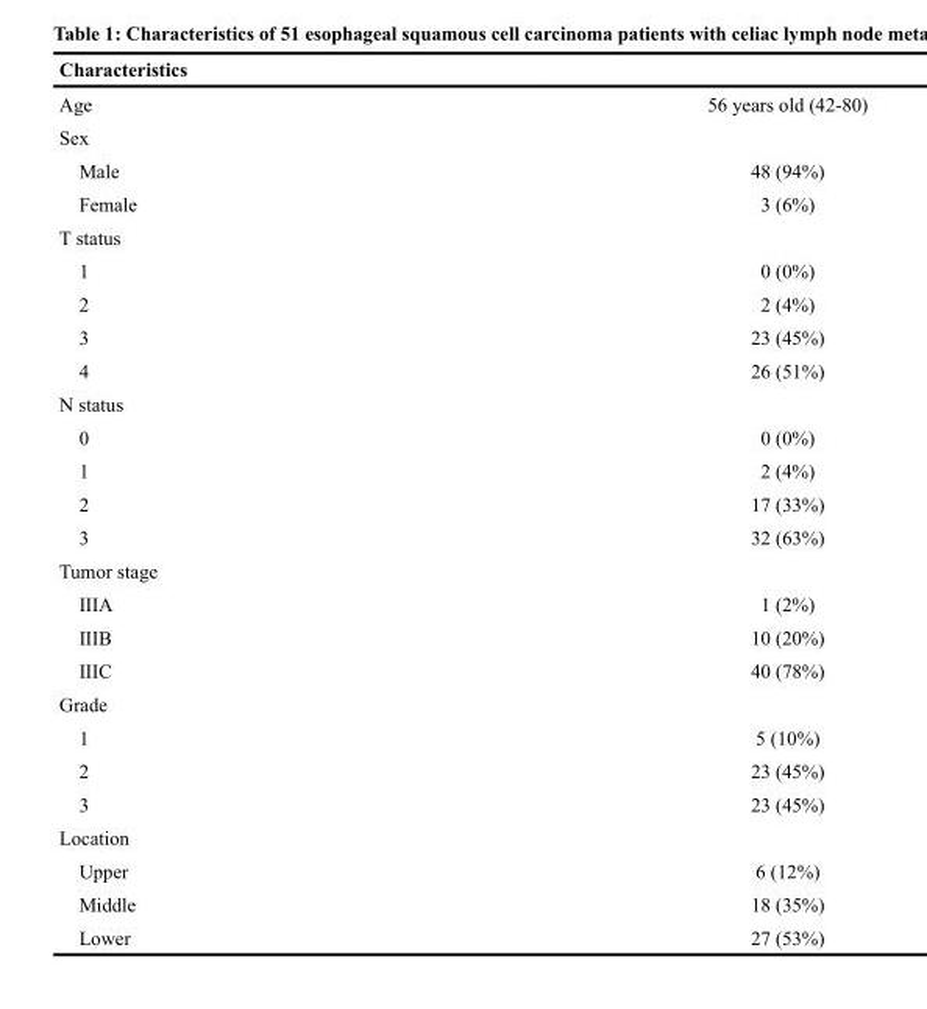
<table><thead><tr><td>Characteristics</td><td></td></tr></thead><tbody><tr><td>Age</td><td>56 years old (42-80)</td></tr><tr><td colspan="2">Sex</td></tr><tr><td>Male</td><td>48 (94%)</td></tr><tr><td>Female</td><td>3 (6%)</td></tr><tr><td colspan="2">T status</td></tr><tr><td>1</td><td>0 (0%)</td></tr><tr><td>2</td><td>2 (4%)</td></tr><tr><td>3</td><td>23 (45%)</td></tr><tr><td>4</td><td>26 (51%)</td></tr><tr><td colspan="2">N status</td></tr><tr><td>0</td><td>0 (0%)</td></tr><tr><td>1</td><td>2 (4%)</td></tr><tr><td>2</td><td>17 (33%)</td></tr><tr><td>3</td><td>32 (63%)</td></tr><tr><td colspan="2">Tumor stage</td></tr><tr><td>IIIA</td><td>1 (2%)</td></tr><tr><td>IIIB</td><td>10 (20%)</td></tr><tr><td>IIIC</td><td>40 (78%)</td></tr><tr><td colspan="2">Grade</td></tr><tr><td>1</td><td>5 (10%)</td></tr><tr><td>2</td><td>23 (45%)</td></tr><tr><td>3</td><td>23 (45%)</td></tr><tr><td colspan="2">Location</td></tr><tr><td>Upper</td><td>6 (12%)</td></tr><tr><td>Middle</td><td>18 (35%)</td></tr><tr><td>Lower</td><td>27 (53%)</td></tr></tbody></table>